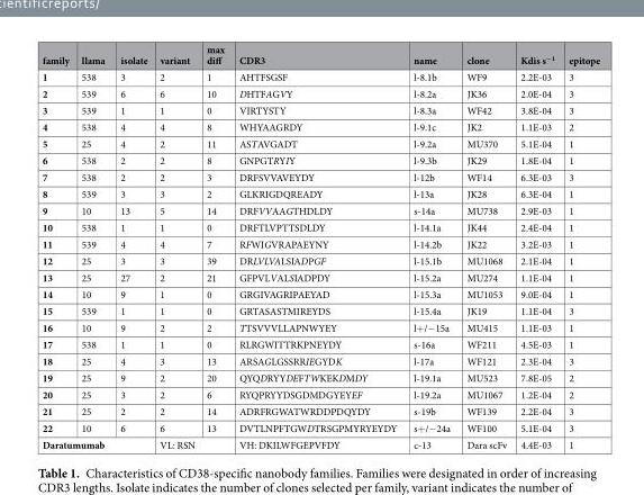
<table><thead><tr><td>family</td><td>llama</td><td>isolate</td><td>variant</td><td>max diff</td><td>CDR3</td><td>name</td><td>clone</td><td>Kdis s<sup>−1</sup></td><td>epitope</td></tr></thead><tbody><tr><td>1</td><td>538</td><td>3</td><td>2</td><td>1</td><td>AHTFSGSF</td><td>l-8.1b</td><td>WF9</td><td>2.2E-03</td><td>3</td></tr><tr><td>2</td><td>539</td><td>6</td><td>6</td><td>10</td><td>DHTFAGVY</td><td>l-8.2a</td><td>JK36</td><td>2.0E-04</td><td>3</td></tr><tr><td>3</td><td>539</td><td>1</td><td>1</td><td>0</td><td>VIRTYSTY</td><td>l-8.3a</td><td>WF42</td><td>3.8E-04</td><td>3</td></tr><tr><td>4</td><td>538</td><td>4</td><td>4</td><td>8</td><td>WHYAAGRDY</td><td>l-9.1c</td><td>JK2</td><td>1.1E-03</td><td>2</td></tr><tr><td>5</td><td>25</td><td>4</td><td>2</td><td>11</td><td>ASTAVGADT</td><td>l-9.2a</td><td>MU370</td><td>5.1E-04</td><td>1</td></tr><tr><td>6</td><td>538</td><td>2</td><td>2</td><td>8</td><td>GNPGTRYIY</td><td>l-9.3b</td><td>JK29</td><td>1.8E-04</td><td>1</td></tr><tr><td>7</td><td>538</td><td>2</td><td>2</td><td>3</td><td>DRFSVVAVEYDY</td><td>l-12b</td><td>WF14</td><td>6.3E-03</td><td>3</td></tr><tr><td>8</td><td>539</td><td>3</td><td>3</td><td>2</td><td>GLKRIGDQREADY</td><td>l-13a</td><td>JK28</td><td>6.3E-04</td><td>1</td></tr><tr><td>9</td><td>10</td><td>13</td><td>5</td><td>14</td><td>DRFVVAAGTHDLDY</td><td>s-14a</td><td>MU738</td><td>2.9E-03</td><td>1</td></tr><tr><td>10</td><td>538</td><td>1</td><td>1</td><td>0</td><td>DRFTLVPTTSDLDY</td><td>l-14.1a</td><td>JK44</td><td>2.4E-04</td><td>1</td></tr><tr><td>11</td><td>539</td><td>4</td><td>4</td><td>7</td><td>RFWIGVRAPAEYNY</td><td>l-14.2b</td><td>JK22</td><td>3.2E-03</td><td>1</td></tr><tr><td>12</td><td>25</td><td>3</td><td>3</td><td>39</td><td>DRLVLVALSIADPGF</td><td>l-15.1b</td><td>MU1068</td><td>2.1E-04</td><td>1</td></tr><tr><td>13</td><td>25</td><td>27</td><td>2</td><td>21</td><td>GFPVLVALSIADPDY</td><td>l-15.2a</td><td>MU274</td><td>1.1E-04</td><td>1</td></tr><tr><td>14</td><td>10</td><td>9</td><td>1</td><td>0</td><td>GRGIVAGRIPAEYAD</td><td>l-15.3a</td><td>MU1053</td><td>9.0E-04</td><td>1</td></tr><tr><td>15</td><td>539</td><td>1</td><td>1</td><td>0</td><td>GRTASASTMIREYDS</td><td>l-15.4a</td><td>JK19</td><td>1.1E-04</td><td>3</td></tr><tr><td>16</td><td>10</td><td>9</td><td>2</td><td>2</td><td>TTSVVVLLAPNWYEY</td><td>l+/−15a</td><td>MU415</td><td>1.1E-03</td><td>1</td></tr><tr><td>17</td><td>538</td><td>1</td><td>1</td><td>0</td><td>RLRGWITTRKPNEYDY</td><td>s-16a</td><td>WF211</td><td>4.5E-03</td><td>1</td></tr><tr><td>18</td><td>25</td><td>4</td><td>3</td><td>13</td><td>ARSAGLGSSRRIEGYDK</td><td>l-17a</td><td>WF121</td><td>2.3E-04</td><td>3</td></tr><tr><td>19</td><td>25</td><td>9</td><td>2</td><td>20</td><td>QYQDRYYDEFTWKEKDMDY</td><td>l-19.1a</td><td>MU523</td><td>7.8E-05</td><td>2</td></tr><tr><td>20</td><td>25</td><td>3</td><td>2</td><td>6</td><td>RYQPRYYDSGDMDGYEYEF</td><td>l-19.2a</td><td>MU1067</td><td>1.2E-04</td><td>2</td></tr><tr><td>21</td><td>25</td><td>2</td><td>2</td><td>14</td><td>ADRFRGWATWRDDPDQYDY</td><td>s-19b</td><td>WF139</td><td>2.2E-04</td><td>3</td></tr><tr><td>22</td><td>10</td><td>6</td><td>6</td><td>13</td><td>DVTLNPFTGWDTRSGPMYRYEYDY</td><td>s+/−24a</td><td>WF100</td><td>5.1E-04</td><td>3</td></tr><tr><td colspan="3">Daratumumab</td><td colspan="2">VL: RSN</td><td>VH: DKILWFGEPVFDY</td><td>c-13</td><td>Dara scFv</td><td>4.4E-03</td><td>1</td></tr></tbody></table>